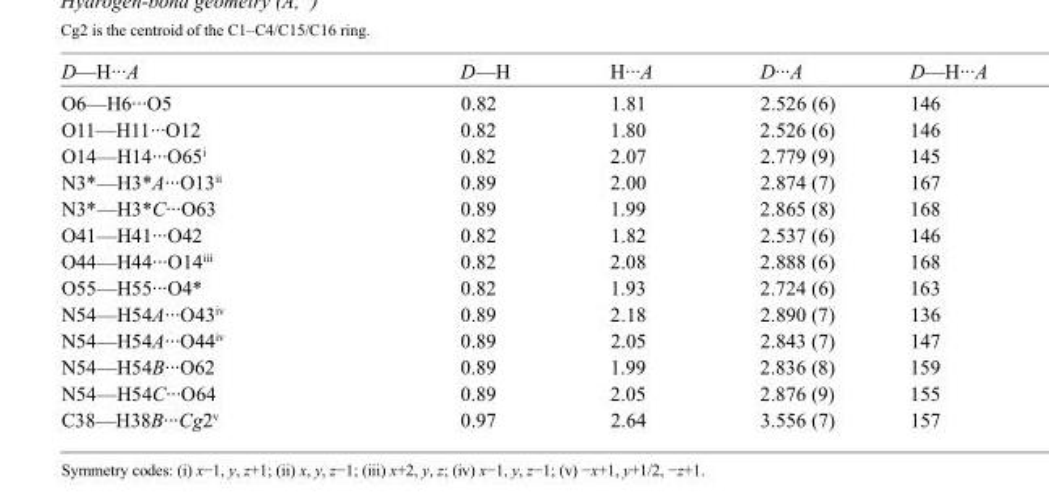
<table><tbody><tr><td>D—H···A</td><td>D—H</td><td>H···A</td><td>D···A</td><td>D—H···A</td></tr><tr><td>O6—H6···O5</td><td>0.82</td><td>1.81</td><td>2.526 (6)</td><td>146</td></tr><tr><td>O11—H11···O12</td><td>0.82</td><td>1.80</td><td>2.526 (6)</td><td>146</td></tr><tr><td>O14—H14···O65<sup>i</sup></td><td>0.82</td><td>2.07</td><td>2.779 (9)</td><td>145</td></tr><tr><td>N3*—H3*A···O13<sup>ii</sup></td><td>0.89</td><td>2.00</td><td>2.874 (7)</td><td>167</td></tr><tr><td>N3*—H3*C···O63</td><td>0.89</td><td>1.99</td><td>2.865 (8)</td><td>168</td></tr><tr><td>O41—H41···O42</td><td>0.82</td><td>1.82</td><td>2.537 (6)</td><td>146</td></tr><tr><td>O44—H44···O14<sup>iii</sup></td><td>0.82</td><td>2.08</td><td>2.888 (6)</td><td>168</td></tr><tr><td>O55—H55···O4*</td><td>0.82</td><td>1.93</td><td>2.724 (6)</td><td>163</td></tr><tr><td>N54—H54A···O43<sup>iv</sup></td><td>0.89</td><td>2.18</td><td>2.890 (7)</td><td>136</td></tr><tr><td>N54—H54A···O44<sup>iv</sup></td><td>0.89</td><td>2.05</td><td>2.843 (7)</td><td>147</td></tr><tr><td>N54—H54B···O62</td><td>0.89</td><td>1.99</td><td>2.836 (8)</td><td>159</td></tr><tr><td>N54—H54C···O64</td><td>0.89</td><td>2.05</td><td>2.876 (9)</td><td>155</td></tr><tr><td>C38—H38B···Cg2<sup>v</sup></td><td>0.97</td><td>2.64</td><td>3.556 (7)</td><td>157</td></tr></tbody></table>